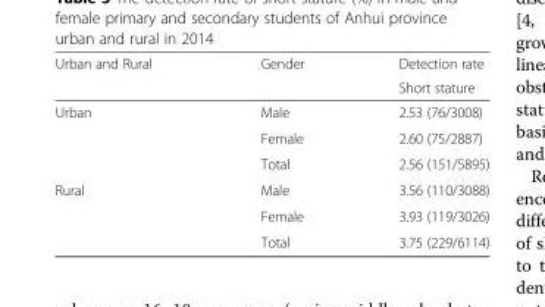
<table><thead><tr><td rowspan="2">Urban and Rural</td><td rowspan="2">Gender</td><td rowspan="2">Detection rate Short stature</td></tr><tr></tr></thead><tbody><tr><td rowspan="3">Urban</td><td>Male</td><td>2.53 (76/3008)</td></tr><tr><td>Female</td><td>2.60 (75/2887)</td></tr><tr><td>Total</td><td>2.56 (151/5895)</td></tr><tr><td rowspan="3">Rural</td><td>Male</td><td>3.56 (110/3088)</td></tr><tr><td>Female</td><td>3.93 (119/3026)</td></tr><tr><td>Total</td><td>3.75 (229/6114)</td></tr></tbody></table>